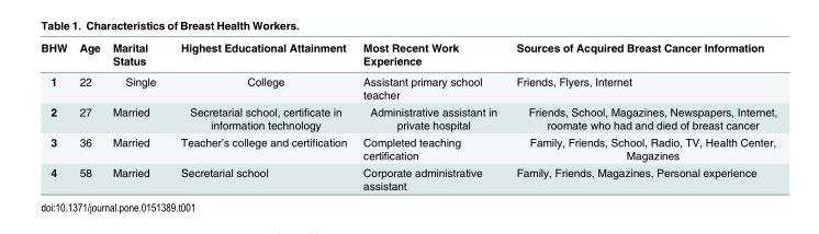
<table><thead><tr><td>BHW</td><td>Age</td><td>Marital Status</td><td>Highest Educational Attainment</td><td>Most Recent Work Experience</td><td>Sources of Acquired Breast Cancer Information</td></tr></thead><tbody><tr><td>1</td><td>22</td><td>Single</td><td>College</td><td>Assistant primary school teacher</td><td>Friends, Flyers, Internet</td></tr><tr><td>2</td><td>27</td><td>Married</td><td>Secretarial school, certificate in information technology</td><td>Administrative assistant in private hospital</td><td>Friends, School, Magazines, Newspapers, Internet, roomate who had and died of breast cancer</td></tr><tr><td>3</td><td>36</td><td>Married</td><td>Teacher’s college and certification</td><td>Completed teaching certification</td><td>Family, Friends, School, Radio, TV, Health Center, Magazines</td></tr><tr><td>4</td><td>58</td><td>Married</td><td>Secretarial school</td><td>Corporate administrative assistant</td><td>Family, Friends, Magazines, Personal experience</td></tr></tbody></table>